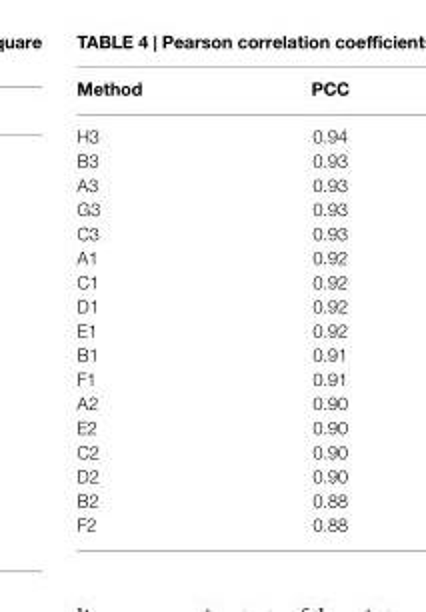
<table><thead><tr><td>Method</td><td>PCC</td></tr></thead><tbody><tr><td>H3</td><td>0.94</td></tr><tr><td>B3</td><td>0.93</td></tr><tr><td>A3</td><td>0.93</td></tr><tr><td>G3</td><td>0.93</td></tr><tr><td>C3</td><td>0.93</td></tr><tr><td>A1</td><td>0.92</td></tr><tr><td>C1</td><td>0.92</td></tr><tr><td>D1</td><td>0.92</td></tr><tr><td>E1</td><td>0.92</td></tr><tr><td>B1</td><td>0.91</td></tr><tr><td>F1</td><td>0.91</td></tr><tr><td>A2</td><td>0.90</td></tr><tr><td>E2</td><td>0.90</td></tr><tr><td>C2</td><td>0.90</td></tr><tr><td>D2</td><td>0.90</td></tr><tr><td>B2</td><td>0.88</td></tr><tr><td>F2</td><td>0.88</td></tr></tbody></table>